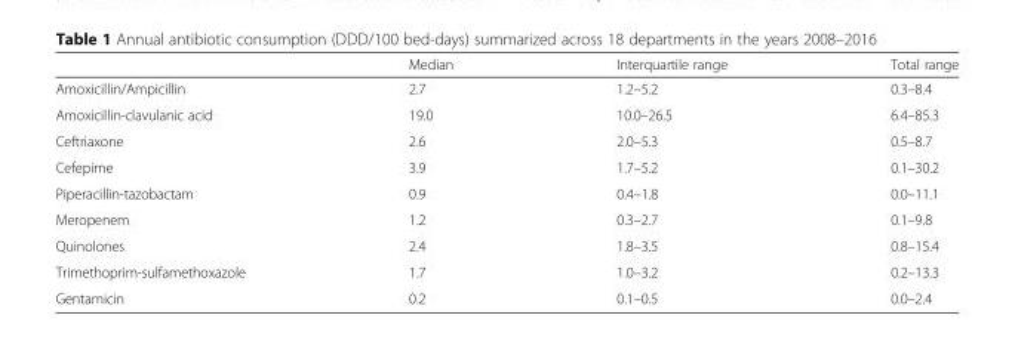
<table><thead><tr><td></td><td>Median</td><td>Interquartile range</td><td>Total range</td></tr></thead><tbody><tr><td>Amoxicillin/Ampicillin</td><td>2.7</td><td>1.2–5.2</td><td>0.3–8.4</td></tr><tr><td>Amoxicillin-clavulanic acid</td><td>19.0</td><td>10.0–26.5</td><td>6.4–85.3</td></tr><tr><td>Ceftriaxone</td><td>2.6</td><td>2.0–5.3</td><td>0.5–8.7</td></tr><tr><td>Cefepime</td><td>3.9</td><td>1.7–5.2</td><td>0.1–30.2</td></tr><tr><td>Piperacillin-tazobactam</td><td>0.9</td><td>0.4–1.8</td><td>0.0–11.1</td></tr><tr><td>Meropenem</td><td>1.2</td><td>0.3–2.7</td><td>0.1–9.8</td></tr><tr><td>Quinolones</td><td>2.4</td><td>1.8–3.5</td><td>0.8–15.4</td></tr><tr><td>Trimethoprim-sulfamethoxazole</td><td>1.7</td><td>1.0–3.2</td><td>0.2–13.3</td></tr><tr><td>Gentamicin</td><td>0.2</td><td>0.1–0.5</td><td>0.0–2.4</td></tr></tbody></table>